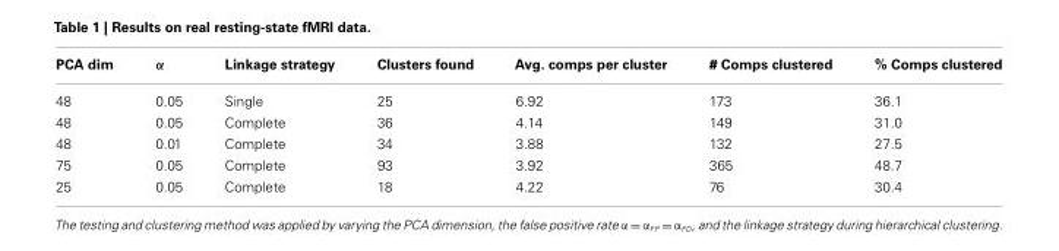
<table><thead><tr><td>PCA dim</td><td>α</td><td>Linkage strategy</td><td>Clusters found</td><td>Avg. comps per cluster</td><td># Comps clustered</td><td>% Comps clustered</td></tr></thead><tbody><tr><td>48</td><td>0.05</td><td>Single</td><td>25</td><td>6.92</td><td>173</td><td>36.1</td></tr><tr><td>48</td><td>0.05</td><td>Complete</td><td>36</td><td>4.14</td><td>149</td><td>31.0</td></tr><tr><td>48</td><td>0.01</td><td>Complete</td><td>34</td><td>3.88</td><td>132</td><td>27.5</td></tr><tr><td>75</td><td>0.05</td><td>Complete</td><td>93</td><td>3.92</td><td>365</td><td>48.7</td></tr><tr><td>25</td><td>0.05</td><td>Complete</td><td>18</td><td>4.22</td><td>76</td><td>30.4</td></tr></tbody></table>